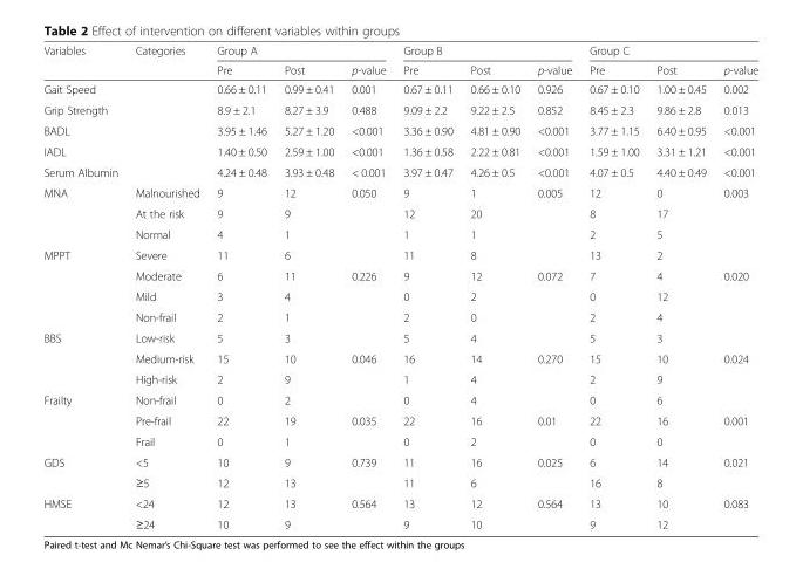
<table><thead><tr><td rowspan="2">Variables</td><td rowspan="2">Categories</td><td colspan="3">Group A</td><td colspan="3">Group B</td><td colspan="3">Group C</td></tr><tr><td>Pre</td><td>Post</td><td>p-value</td><td>Pre</td><td>Post</td><td>p-value</td><td>Pre</td><td>Post</td><td>p-value</td></tr></thead><tbody><tr><td>Gait Speed</td><td></td><td>0.66 ± 0.11</td><td>0.99 ± 0.41</td><td>0.001</td><td>0.67 ± 0.11</td><td>0.66 ± 0.10</td><td>0.926</td><td>0.67 ± 0.10</td><td>1.00 ± 0.45</td><td>0.002</td></tr><tr><td>Grip Strength</td><td></td><td>8.9 ± 2.1</td><td>8.27 ± 3.9</td><td>0.488</td><td>9.09 ± 2.2</td><td>9.22 ± 2.5</td><td>0.852</td><td>8.45 ± 2.3</td><td>9.86 ± 2.8</td><td>0.013</td></tr><tr><td>BADL</td><td></td><td>3.95 ± 1.46</td><td>5.27 ± 1.20</td><td>&lt;0.001</td><td>3.36 ± 0.90</td><td>4.81 ± 0.90</td><td>&lt;0.001</td><td>3.77 ± 1.15</td><td>6.40 ± 0.95</td><td>&lt;0.001</td></tr><tr><td>IADL</td><td></td><td>1.40 ± 0.50</td><td>2.59 ± 1.00</td><td>&lt;0.001</td><td>1.36 ± 0.58</td><td>2.22 ± 0.81</td><td>&lt;0.001</td><td>1.59 ± 1.00</td><td>3.31 ± 1.21</td><td>&lt;0.001</td></tr><tr><td>Serum Albumin</td><td></td><td>4.24 ± 0.48</td><td>3.93 ± 0.48</td><td>&lt; 0.001</td><td>3.97 ± 0.47</td><td>4.26 ± 0.5</td><td>&lt;0.001</td><td>4.07 ± 0.5</td><td>4.40 ± 0.49</td><td>&lt;0.001</td></tr><tr><td rowspan="3">MNA</td><td>Malnourished</td><td>9</td><td>12</td><td>0.050</td><td>9</td><td>1</td><td>0.005</td><td>12</td><td>0</td><td>0.003</td></tr><tr><td>At the risk</td><td>9</td><td>9</td><td></td><td>12</td><td>20</td><td></td><td>8</td><td>17</td><td></td></tr><tr><td>Normal</td><td>4</td><td>1</td><td></td><td>1</td><td>1</td><td></td><td>2</td><td>5</td><td></td></tr><tr><td rowspan="4">MPPT</td><td>Severe</td><td>11</td><td>6</td><td></td><td>11</td><td>8</td><td></td><td>13</td><td>2</td><td></td></tr><tr><td>Moderate</td><td>6</td><td>11</td><td>0.226</td><td>9</td><td>12</td><td>0.072</td><td>7</td><td>4</td><td>0.020</td></tr><tr><td>Mild</td><td>3</td><td>4</td><td></td><td>0</td><td>2</td><td></td><td>0</td><td>12</td><td></td></tr><tr><td>Non-frail</td><td>2</td><td>1</td><td></td><td>2</td><td>0</td><td></td><td>2</td><td>4</td><td></td></tr><tr><td rowspan="3">BBS</td><td>Low-risk</td><td>5</td><td>3</td><td></td><td>5</td><td>4</td><td></td><td>5</td><td>3</td><td></td></tr><tr><td>Medium-risk</td><td>15</td><td>10</td><td>0.046</td><td>16</td><td>14</td><td>0.270</td><td>15</td><td>10</td><td>0.024</td></tr><tr><td>High-risk</td><td>2</td><td>9</td><td></td><td>1</td><td>4</td><td></td><td>2</td><td>9</td><td></td></tr><tr><td rowspan="3">Frailty</td><td>Non-frail</td><td>0</td><td>2</td><td></td><td>0</td><td>4</td><td></td><td>0</td><td>6</td><td></td></tr><tr><td>Pre-frail</td><td>22</td><td>19</td><td>0.035</td><td>22</td><td>16</td><td>0.01</td><td>22</td><td>16</td><td>0.001</td></tr><tr><td>Frail</td><td>0</td><td>1</td><td></td><td>0</td><td>2</td><td></td><td>0</td><td>0</td><td></td></tr><tr><td rowspan="2">GDS</td><td>&lt;5</td><td>10</td><td>9</td><td>0.739</td><td>11</td><td>16</td><td>0.025</td><td>6</td><td>14</td><td>0.021</td></tr><tr><td>≥5</td><td>12</td><td>13</td><td></td><td>11</td><td>6</td><td></td><td>16</td><td>8</td><td></td></tr><tr><td rowspan="2">HMSE</td><td>&lt;24</td><td>12</td><td>13</td><td>0.564</td><td>13</td><td>12</td><td>0.564</td><td>13</td><td>10</td><td>0.083</td></tr><tr><td>≥24</td><td>10</td><td>9</td><td></td><td>9</td><td>10</td><td></td><td>9</td><td>12</td><td></td></tr></tbody></table>